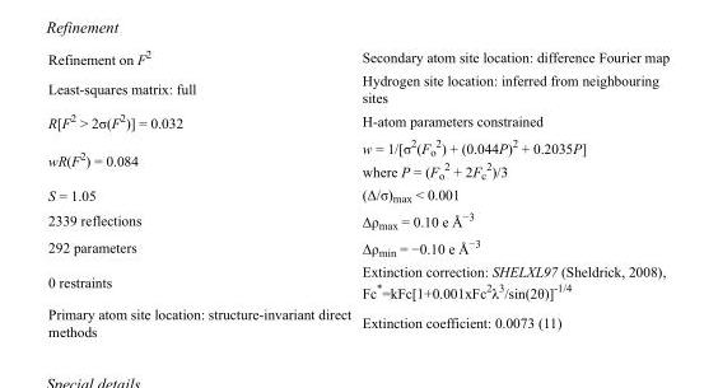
<table><tbody><tr><td>Refinement on F<sup>2</sup></td><td>Secondary atom site location: difference Fourier map</td></tr><tr><td>Least-squares matrix: full</td><td>Hydrogen site location: inferred from neighbouring sites</td></tr><tr><td>R[F<sup>2</sup> &gt; 2σ(F<sup>2</sup>)] = 0.032</td><td>H-atom parameters constrained</td></tr><tr><td>wR(F<sup>2</sup>) = 0.084</td><td>w = 1/[σ<sup>2</sup>(F<sub>o</sub> <sup>2</sup>) + (0.044P)<sup>2</sup> + 0.2035P] where P = (F<sub>o</sub> <sup>2</sup> + 2F<sub>c</sub> <sup>2</sup>)/3</td></tr><tr><td>S = 1.05</td><td>(Δ/σ)<sub>max</sub> &lt; 0.001</td></tr><tr><td>2339 reflections</td><td>Δρ<sub>max</sub> = 0.10 e Å<sup>−3</sup></td></tr><tr><td>292 parameters</td><td>Δρ<sub>min</sub> = −0.10 e Å<sup>−3</sup></td></tr><tr><td>0 restraints</td><td>Extinction correction: SHELXL97 (Sheldrick, 2008), Fc*=kFc[1+0.001xFc<sup>2</sup>λ<sup>3</sup>/sin(2θ)]<sup>-1/4</sup></td></tr><tr><td>Primary atom site location: structure-invariant direct methods</td><td>Extinction coefficient: 0.0073 (11)</td></tr></tbody></table>